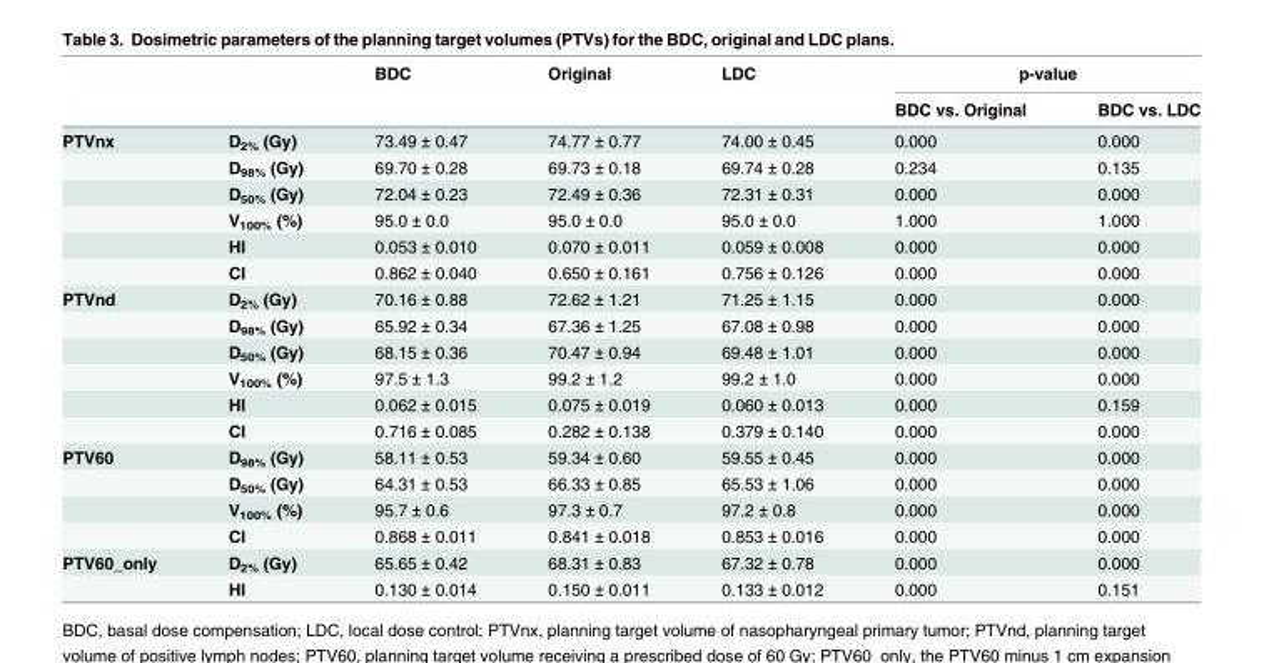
<table><thead><tr><td rowspan="2"></td><td rowspan="2"></td><td rowspan="2">BDC</td><td rowspan="2">Original</td><td rowspan="2">LDC</td><td colspan="2">p-value</td></tr><tr><td>BDC vs. Original</td><td>BDC vs. LDC</td></tr></thead><tbody><tr><td rowspan="6">PTVnx</td><td>D<sub>2%</sub> (Gy)</td><td>73.49 ± 0.47</td><td>74.77 ± 0.77</td><td>74.00 ± 0.45</td><td>0.000</td><td>0.000</td></tr><tr><td>D<sub>98%</sub> (Gy)</td><td>69.70 ± 0.28</td><td>69.73 ± 0.18</td><td>69.74 ± 0.28</td><td>0.234</td><td>0.135</td></tr><tr><td>D<sub>50%</sub> (Gy)</td><td>72.04 ± 0.23</td><td>72.49 ± 0.36</td><td>72.31 ± 0.31</td><td>0.000</td><td>0.000</td></tr><tr><td>V<sub>100%</sub> (%)</td><td>95.0 ± 0.0</td><td>95.0 ± 0.0</td><td>95.0 ± 0.0</td><td>1.000</td><td>1.000</td></tr><tr><td>HI</td><td>0.053 ± 0.010</td><td>0.070 ± 0.011</td><td>0.059 ± 0.008</td><td>0.000</td><td>0.000</td></tr><tr><td>CI</td><td>0.862 ± 0.040</td><td>0.650 ± 0.161</td><td>0.756 ± 0.126</td><td>0.000</td><td>0.000</td></tr><tr><td rowspan="6">PTVnd</td><td>D<sub>2%</sub> (Gy)</td><td>70.16 ± 0.88</td><td>72.62 ± 1.21</td><td>71.25 ± 1.15</td><td>0.000</td><td>0.000</td></tr><tr><td>D<sub>98%</sub> (Gy)</td><td>65.92 ± 0.34</td><td>67.36 ± 1.25</td><td>67.08 ± 0.98</td><td>0.000</td><td>0.000</td></tr><tr><td>D<sub>50%</sub> (Gy)</td><td>68.15 ± 0.36</td><td>70.47 ± 0.94</td><td>69.48 ± 1.01</td><td>0.000</td><td>0.000</td></tr><tr><td>V<sub>100%</sub> (%)</td><td>97.5 ± 1.3</td><td>99.2 ± 1.2</td><td>99.2 ± 1.0</td><td>0.000</td><td>0.000</td></tr><tr><td>HI</td><td>0.062 ± 0.015</td><td>0.075 ± 0.019</td><td>0.060 ± 0.013</td><td>0.000</td><td>0.159</td></tr><tr><td>CI</td><td>0.716 ± 0.085</td><td>0.282 ± 0.138</td><td>0.379 ± 0.140</td><td>0.000</td><td>0.000</td></tr><tr><td rowspan="4">PTV60</td><td>D<sub>98%</sub> (Gy)</td><td>58.11 ± 0.53</td><td>59.34 ± 0.60</td><td>59.55 ± 0.45</td><td>0.000</td><td>0.000</td></tr><tr><td>D<sub>50%</sub> (Gy)</td><td>64.31 ± 0.53</td><td>66.33 ± 0.85</td><td>65.53 ± 1.06</td><td>0.000</td><td>0.000</td></tr><tr><td>V<sub>100%</sub> (%)</td><td>95.7 ± 0.6</td><td>97.3 ± 0.7</td><td>97.2 ± 0.8</td><td>0.000</td><td>0.000</td></tr><tr><td>CI</td><td>0.868 ± 0.011</td><td>0.841 ± 0.018</td><td>0.853 ± 0.016</td><td>0.000</td><td>0.000</td></tr><tr><td rowspan="2">PTV60_only</td><td>D<sub>2%</sub> (Gy)</td><td>65.65 ± 0.42</td><td>68.31 ± 0.83</td><td>67.32 ± 0.78</td><td>0.000</td><td>0.000</td></tr><tr><td>HI</td><td>0.130 ± 0.014</td><td>0.150 ± 0.011</td><td>0.133 ± 0.012</td><td>0.000</td><td>0.151</td></tr></tbody></table>